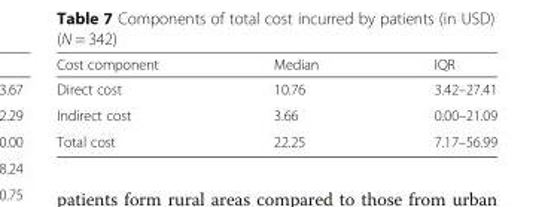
<table><thead><tr><td>Cost component</td><td>Median</td><td>IQR</td></tr></thead><tbody><tr><td>Direct cost</td><td>10.76</td><td>3.42–27.41</td></tr><tr><td>Indirect cost</td><td>3.66</td><td>0.00–21.09</td></tr><tr><td>Total cost</td><td>22.25</td><td>7.17–56.99</td></tr></tbody></table>